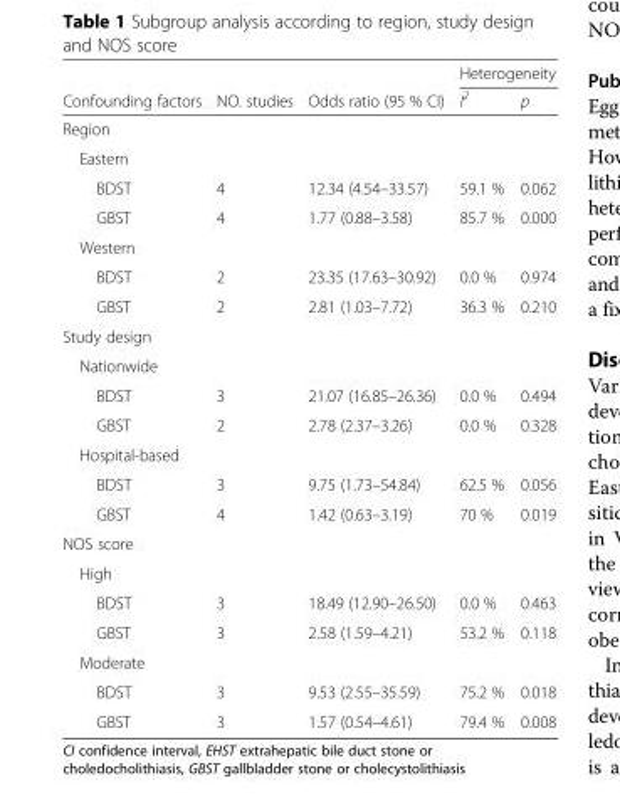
<table><thead><tr><td rowspan="2">Confounding factors</td><td rowspan="2">NO. studies</td><td rowspan="2">Odds ratio (95 % CI)</td><td colspan="2">Heterogeneity</td></tr><tr><td>I<sup>2</sup></td><td>p</td></tr></thead><tbody><tr><td colspan="5">Region</td></tr><tr><td colspan="5">Eastern</td></tr><tr><td>BDST</td><td>4</td><td>12.34 (4.54–33.57)</td><td>59.1 %</td><td>0.062</td></tr><tr><td>GBST</td><td>4</td><td>1.77 (0.88–3.58)</td><td>85.7 %</td><td>0.000</td></tr><tr><td colspan="5">Western</td></tr><tr><td>BDST</td><td>2</td><td>23.35 (17.63–30.92)</td><td>0.0 %</td><td>0.974</td></tr><tr><td>GBST</td><td>2</td><td>2.81 (1.03–7.72)</td><td>36.3 %</td><td>0.210</td></tr><tr><td colspan="5">Study design</td></tr><tr><td colspan="5">Nationwide</td></tr><tr><td>BDST</td><td>3</td><td>21.07 (16.85–26.36)</td><td>0.0 %</td><td>0.494</td></tr><tr><td>GBST</td><td>2</td><td>2.78 (2.37–3.26)</td><td>0.0 %</td><td>0.328</td></tr><tr><td colspan="5">Hospital-based</td></tr><tr><td>BDST</td><td>3</td><td>9.75 (1.73–54.84)</td><td>62.5 %</td><td>0.056</td></tr><tr><td>GBST</td><td>4</td><td>1.42 (0.63–3.19)</td><td>70 %</td><td>0.019</td></tr><tr><td colspan="5">NOS score</td></tr><tr><td colspan="5">High</td></tr><tr><td>BDST</td><td>3</td><td>18.49 (12.90–26.50)</td><td>0.0 %</td><td>0.463</td></tr><tr><td>GBST</td><td>3</td><td>2.58 (1.59–4.21)</td><td>53.2 %</td><td>0.118</td></tr><tr><td colspan="5">Moderate</td></tr><tr><td>BDST</td><td>3</td><td>9.53 (2.55–35.59)</td><td>75.2 %</td><td>0.018</td></tr><tr><td>GBST</td><td>3</td><td>1.57 (0.54–4.61)</td><td>79.4 %</td><td>0.008</td></tr></tbody></table>